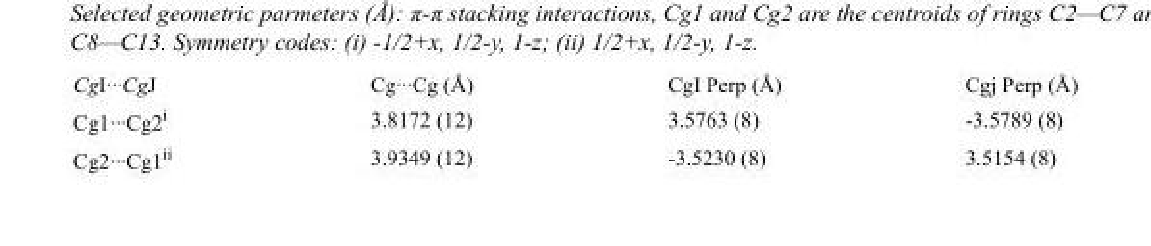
<table><tbody><tr><td>CgI···CgJ</td><td>Cg···Cg (Å)</td><td>CgI Perp (Å)</td><td>Cgj Perp (Å)</td></tr><tr><td>Cg1···Cg2<sup>i</sup></td><td>3.8172 (12)</td><td>3.5763 (8)</td><td>-3.5789 (8)</td></tr><tr><td>Cg2···Cg1<sup>ii</sup></td><td>3.9349 (12)</td><td>-3.5230 (8)</td><td>3.5154 (8)</td></tr></tbody></table>